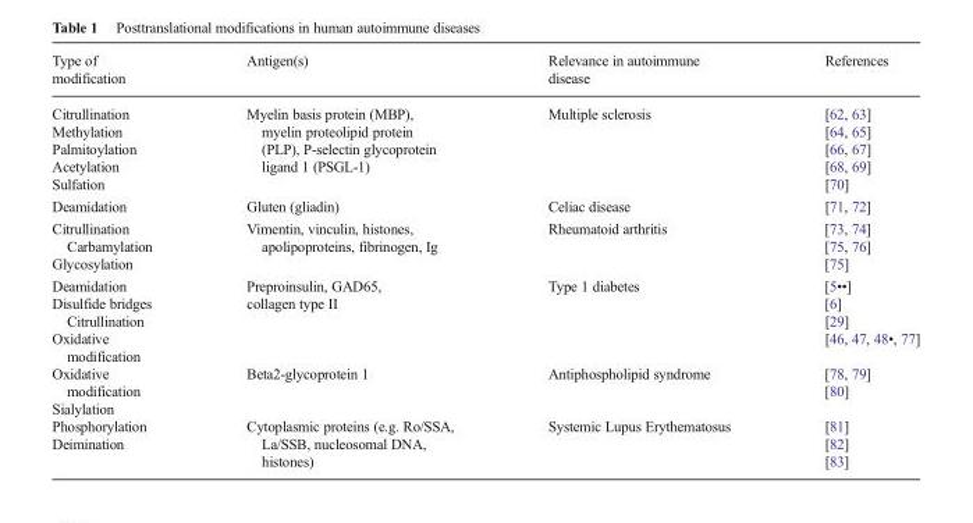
<table><thead><tr><td>Type of modification</td><td>Antigen(s)</td><td>Relevance in autoimmune disease</td><td>References</td></tr></thead><tbody><tr><td>Citrullination Methylation Palmitoylation Acetylation Sulfation</td><td>Myelin basis protein (MBP), myelin proteolipid protein (PLP), P-selectin glycoprotein ligand 1 (PSGL-1)</td><td>Multiple sclerosis</td><td>[62, 63] [64, 65] [66, 67] [68, 69] [70]</td></tr><tr><td>Deamidation</td><td>Gluten (gliadin)</td><td>Celiac disease</td><td>[71, 72]</td></tr><tr><td>Citrullination Carbamylation Glycosylation</td><td>Vimentin, vinculin, histones, apolipoproteins, fibrinogen, Ig</td><td>Rheumatoid arthritis</td><td>[73, 74] [75, 76] [75]</td></tr><tr><td>Deamidation Disulfide bridges Citrullination Oxidative modification</td><td>Preproinsulin, GAD65, collagen type II</td><td>Type 1 diabetes</td><td>[5••] [6] [29] [46, 47, 48•, 77]</td></tr><tr><td>Oxidative modification Sialylation</td><td>Beta2-glycoprotein 1</td><td>Antiphospholipid syndrome</td><td>[78, 79] [80]</td></tr><tr><td>Phosphorylation Deimination</td><td>Cytoplasmic proteins (e.g. Ro/SSA, La/SSB, nucleosomal DNA, histones)</td><td>Systemic Lupus Erythematosus</td><td>[81] [82] [83]</td></tr></tbody></table>